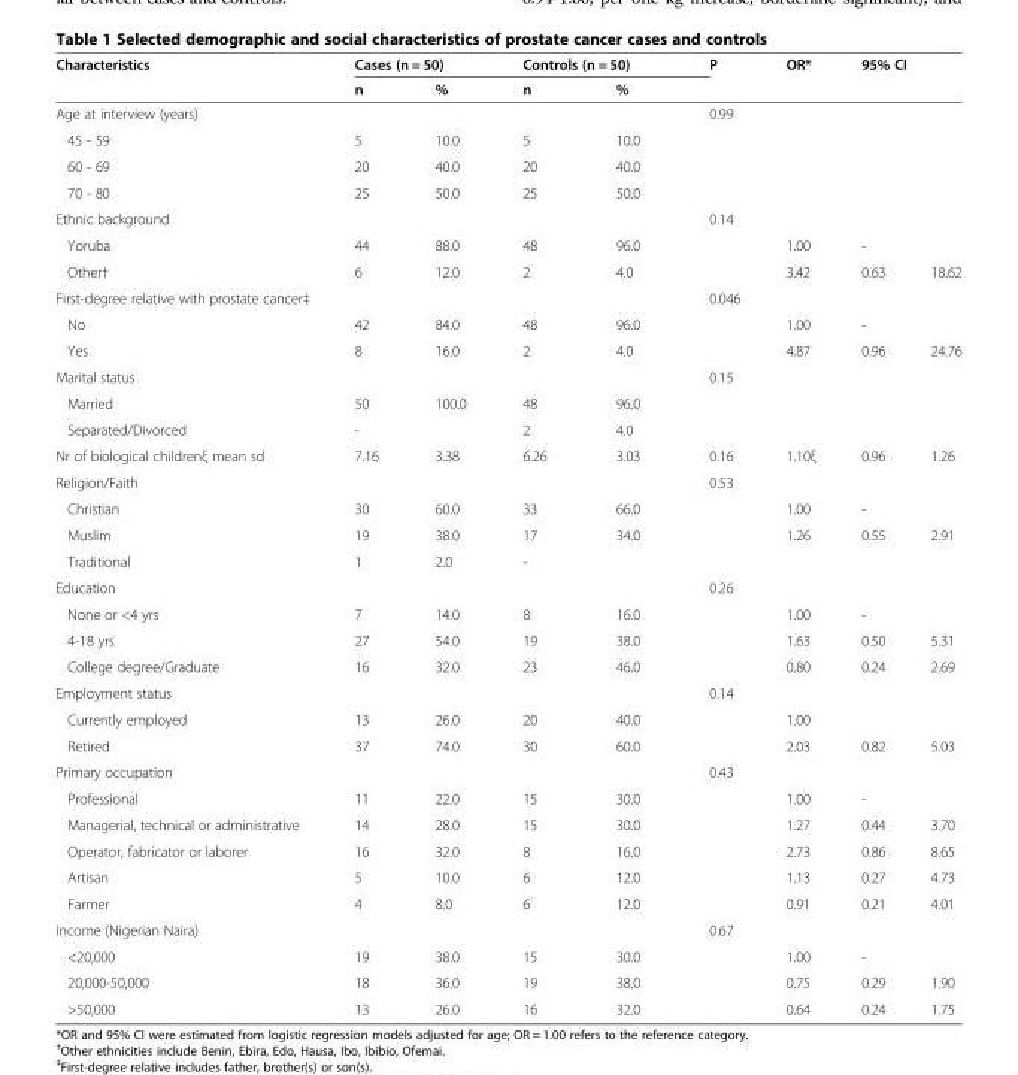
<table><thead><tr><td rowspan="2">Characteristics</td><td colspan="2">Cases (n = 50)</td><td colspan="2">Controls (n = 50)</td><td rowspan="2">P</td><td rowspan="2">OR*</td><td rowspan="2" colspan="2">95% CI</td></tr><tr><td>n</td><td>%</td><td>n</td><td>%</td></tr></thead><tbody><tr><td>Age at interview (years)</td><td></td><td></td><td></td><td></td><td>0.99</td><td></td><td rowspan="4" colspan="2"></td></tr><tr><td>45 - 59</td><td>5</td><td>10.0</td><td>5</td><td>10.0</td><td></td><td></td></tr><tr><td>60 - 69</td><td>20</td><td>40.0</td><td>20</td><td>40.0</td><td></td><td></td></tr><tr><td>70 - 80</td><td>25</td><td>50.0</td><td>25</td><td>50.0</td><td></td><td></td></tr><tr><td>Ethnic background</td><td></td><td></td><td></td><td></td><td>0.14</td><td></td><td></td><td></td></tr><tr><td>Yoruba</td><td>44</td><td>88.0</td><td>48</td><td>96.0</td><td></td><td>1.00</td><td>-</td><td></td></tr><tr><td>Other†</td><td>6</td><td>12.0</td><td>2</td><td>4.0</td><td></td><td>3.42</td><td>0.63</td><td>18.62</td></tr><tr><td>First-degree relative with prostate cancer‡</td><td></td><td></td><td></td><td></td><td>0.046</td><td></td><td></td><td></td></tr><tr><td>No</td><td>42</td><td>84.0</td><td>48</td><td>96.0</td><td></td><td>1.00</td><td>-</td><td></td></tr><tr><td>Yes</td><td>8</td><td>16.0</td><td>2</td><td>4.0</td><td></td><td>4.87</td><td>0.96</td><td>24.76</td></tr><tr><td>Marital status</td><td></td><td></td><td></td><td></td><td>0.15</td><td></td><td></td><td></td></tr><tr><td>Married</td><td>50</td><td>100.0</td><td>48</td><td>96.0</td><td></td><td></td><td></td><td></td></tr><tr><td>Separated/Divorced</td><td>-</td><td></td><td>2</td><td>4.0</td><td></td><td></td><td></td><td></td></tr><tr><td>Nr of biological childrenξ mean sd</td><td>7.16</td><td>3.38</td><td>6.26</td><td>3.03</td><td>0.16</td><td>1.10ξ</td><td>0.96</td><td>1.26</td></tr><tr><td>Religion/Faith</td><td></td><td></td><td></td><td></td><td>0.53</td><td></td><td></td><td></td></tr><tr><td>Christian</td><td>30</td><td>60.0</td><td>33</td><td>66.0</td><td></td><td>1.00</td><td>-</td><td></td></tr><tr><td>Muslim</td><td>19</td><td>38.0</td><td>17</td><td>34.0</td><td></td><td>1.26</td><td>0.55</td><td>2.91</td></tr><tr><td>Traditional</td><td>1</td><td>2.0</td><td>-</td><td></td><td></td><td></td><td></td><td></td></tr><tr><td>Education</td><td></td><td></td><td></td><td></td><td>0.26</td><td></td><td></td><td></td></tr><tr><td>None or &lt;4 yrs</td><td>7</td><td>14.0</td><td>8</td><td>16.0</td><td></td><td>1.00</td><td>-</td><td></td></tr><tr><td>4-18 yrs</td><td>27</td><td>54.0</td><td>19</td><td>38.0</td><td></td><td>1.63</td><td>0.50</td><td>5.31</td></tr><tr><td>College degree/Graduate</td><td>16</td><td>32.0</td><td>23</td><td>46.0</td><td></td><td>0.80</td><td>0.24</td><td>2.69</td></tr><tr><td>Employment status</td><td></td><td></td><td></td><td></td><td>0.14</td><td></td><td></td><td></td></tr><tr><td>Currently employed</td><td>13</td><td>26.0</td><td>20</td><td>40.0</td><td></td><td>1.00</td><td></td><td></td></tr><tr><td>Retired</td><td>37</td><td>74.0</td><td>30</td><td>60.0</td><td></td><td>2.03</td><td>0.82</td><td>5.03</td></tr><tr><td>Primary occupation</td><td></td><td></td><td></td><td></td><td>0.43</td><td></td><td></td><td></td></tr><tr><td>Professional</td><td>11</td><td>22.0</td><td>15</td><td>30.0</td><td></td><td>1.00</td><td>-</td><td></td></tr><tr><td>Managerial, technical or administrative</td><td>14</td><td>28.0</td><td>15</td><td>30.0</td><td></td><td>1.27</td><td>0.44</td><td>3.70</td></tr><tr><td>Operator, fabricator or laborer</td><td>16</td><td>32.0</td><td>8</td><td>16.0</td><td></td><td>2.73</td><td>0.86</td><td>8.65</td></tr><tr><td>Artisan</td><td>5</td><td>10.0</td><td>6</td><td>12.0</td><td></td><td>1.13</td><td>0.27</td><td>4.73</td></tr><tr><td>Farmer</td><td>4</td><td>8.0</td><td>6</td><td>12.0</td><td></td><td>0.91</td><td>0.21</td><td>4.01</td></tr><tr><td>Income (Nigerian Naira)</td><td></td><td></td><td></td><td></td><td>0.67</td><td></td><td></td><td></td></tr><tr><td>&lt;20,000</td><td>19</td><td>38.0</td><td>15</td><td>30.0</td><td></td><td>1.00</td><td>-</td><td></td></tr><tr><td>20,000-50,000</td><td>18</td><td>36.0</td><td>19</td><td>38.0</td><td></td><td>0.75</td><td>0.29</td><td>1.90</td></tr><tr><td>&gt;50,000</td><td>13</td><td>26.0</td><td>16</td><td>32.0</td><td></td><td>0.64</td><td>0.24</td><td>1.75</td></tr></tbody></table>